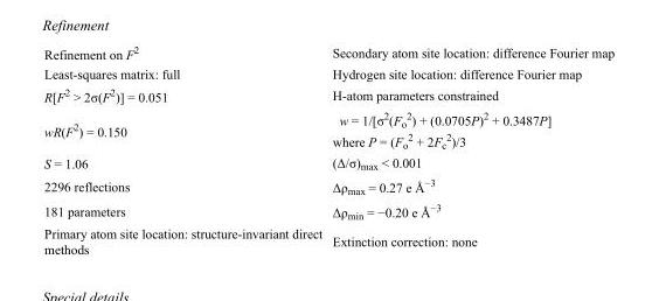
<table><tbody><tr><td>Refinement on F<sup>2</sup></td><td>Secondary atom site location: difference Fourier map</td></tr><tr><td>Least-squares matrix: full</td><td>Hydrogen site location: difference Fourier map</td></tr><tr><td>R[F<sup>2</sup> &gt; 2σ(F<sup>2</sup>)] = 0.051</td><td>H-atom parameters constrained</td></tr><tr><td>wR(F<sup>2</sup>) = 0.150</td><td>w = 1/[σ<sup>2</sup>(F<sub>o</sub> <sup>2</sup>) + (0.0705P)<sup>2</sup> + 0.3487P] where P = (F<sub>o</sub> <sup>2</sup> + 2F<sub>c</sub> <sup>2</sup>)/3</td></tr><tr><td>S = 1.06</td><td>(Δ/σ)<sub>max</sub> &lt; 0.001</td></tr><tr><td>2296 reflections</td><td>Δρ<sub>max</sub> = 0.27 e Å<sup>−3</sup></td></tr><tr><td>181 parameters</td><td>Δρ<sub>min</sub> = −0.20 e Å<sup>−3</sup></td></tr><tr><td>Primary atom site location: structure-invariant direct methods</td><td>Extinction correction: none</td></tr></tbody></table>